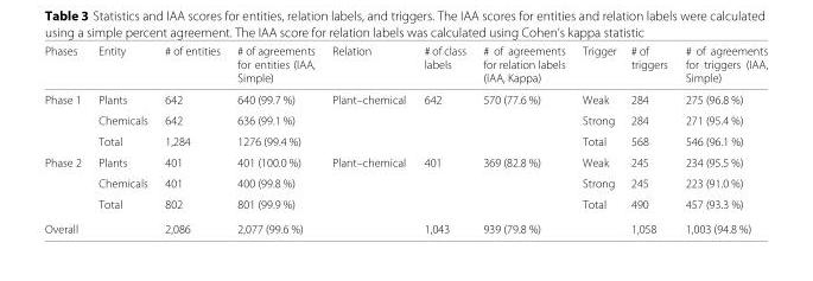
<table><thead><tr><td>Phases</td><td>Entity</td><td># of entities</td><td># of agreements for entities (IAA, Simple)</td><td>Relation</td><td># of class labels</td><td># of agreements for relation labels (IAA, Kappa)</td><td>Trigger</td><td># of triggers</td><td># of agreements for triggers (IAA, Simple)</td></tr></thead><tbody><tr><td rowspan="3">Phase 1</td><td>Plants</td><td>642</td><td>640 (99.7 %)</td><td>Plant–chemical</td><td>642</td><td>570 (77.6 %)</td><td>Weak</td><td>284</td><td>275 (96.8 %)</td></tr><tr><td>Chemicals</td><td>642</td><td>636 (99.1 %)</td><td></td><td></td><td></td><td>Strong</td><td>284</td><td>271 (95.4 %)</td></tr><tr><td>Total</td><td>1,284</td><td>1276 (99.4 %)</td><td></td><td></td><td></td><td>Total</td><td>568</td><td>546 (96.1 %)</td></tr><tr><td rowspan="3">Phase 2</td><td>Plants</td><td>401</td><td>401 (100.0 %)</td><td>Plant–chemical</td><td>401</td><td>369 (82.8 %)</td><td>Weak</td><td>245</td><td>234 (95.5 %)</td></tr><tr><td>Chemicals</td><td>401</td><td>400 (99.8 %)</td><td></td><td></td><td></td><td>Strong</td><td>245</td><td>223 (91.0 %)</td></tr><tr><td>Total</td><td>802</td><td>801 (99.9 %)</td><td></td><td></td><td></td><td>Total</td><td>490</td><td>457 (93.3 %)</td></tr><tr><td>Overall</td><td></td><td>2,086</td><td>2,077 (99.6 %)</td><td></td><td>1,043</td><td>939 (79.8 %)</td><td></td><td>1,058</td><td>1,003 (94.8 %)</td></tr></tbody></table>